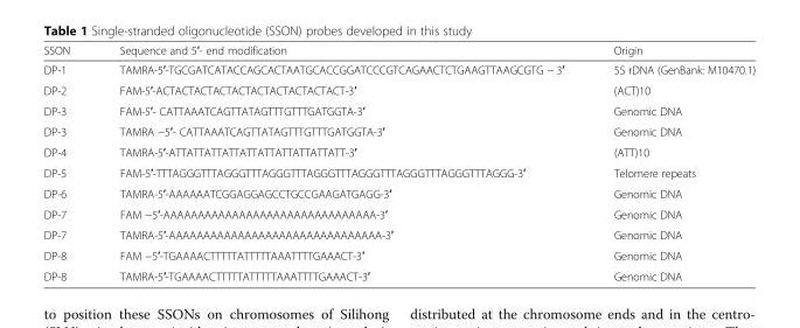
<table><thead><tr><td>SSON</td><td>Sequence and 5′- end modification</td><td>Origin</td></tr></thead><tbody><tr><td>DP-1</td><td>TAMRA-5′-TGCGATCATACCAGCACTAATGCACCGGATCCCGTCAGAACTCTGAAGTTAAGCGTG − 3′</td><td>5S rDNA (GenBank: M10470.1)</td></tr><tr><td>DP-2</td><td>FAM-5′-ACTACTACTACTACTACTACTACTACTACT-3′</td><td>(ACT)10</td></tr><tr><td>DP-3</td><td>FAM-5′- CATTAAATCAGTTATAGTTTGTTTGATGGTA-3′</td><td>Genomic DNA</td></tr><tr><td>DP-3</td><td>TAMRA −5′- CATTAAATCAGTTATAGTTTGTTTGATGGTA-3′</td><td>Genomic DNA</td></tr><tr><td>DP-4</td><td>TAMRA-5′-ATTATTATTATTATTATTATTATTATTATT-3′</td><td>(ATT)10</td></tr><tr><td>DP-5</td><td>FAM-5′-TTTAGGGTTTAGGGTTTAGGGTTTAGGGTTTAGGGTTTAGGGTTTAGGGTTTAGGG-3′</td><td>Telomere repeats</td></tr><tr><td>DP-6</td><td>TAMRA-5′-AAAAAATCGGAGGAGCCTGCCGAAGATGAGG-3′</td><td>Genomic DNA</td></tr><tr><td>DP-7</td><td>FAM −5′-AAAAAAAAAAAAAAAAAAAAAAAAAAAAAAA-3′</td><td>Genomic DNA</td></tr><tr><td>DP-7</td><td>TAMRA-5′-AAAAAAAAAAAAAAAAAAAAAAAAAAAAAAA-3′</td><td>Genomic DNA</td></tr><tr><td>DP-8</td><td>FAM −5′-TGAAAACTTTTTATTTTTAAATTTTGAAACT-3′</td><td>Genomic DNA</td></tr><tr><td>DP-8</td><td>TAMRA-5′-TGAAAACTTTTTATTTTTAAATTTTGAAACT-3′</td><td>Genomic DNA</td></tr></tbody></table>